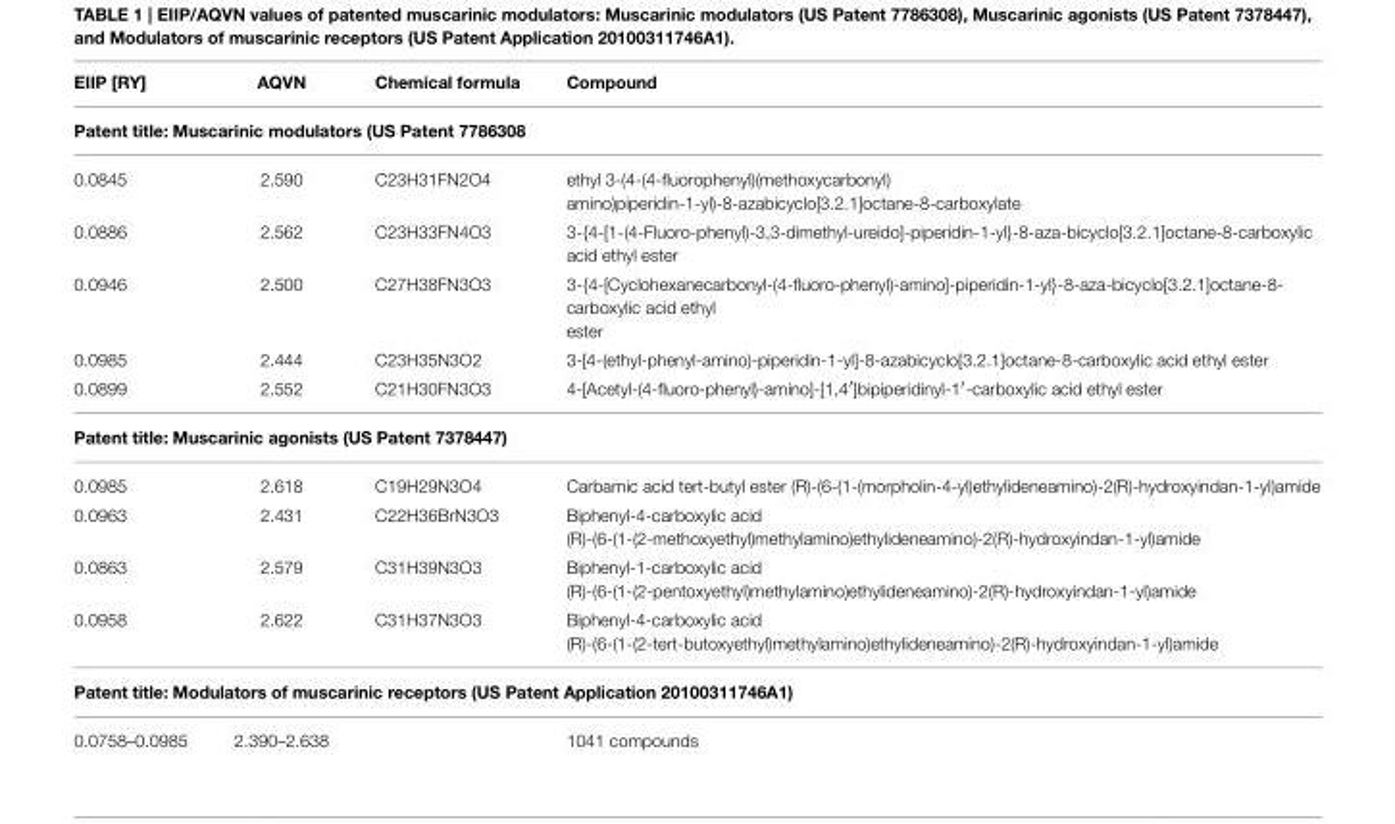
<table><thead><tr><td>EIIP [RY]</td><td>AQVN</td><td>Chemical formula</td><td>Compound</td></tr></thead><tbody><tr><td colspan="4">Patent title: Muscarinic modulators (US Patent 7786308</td></tr><tr><td>0.0845</td><td>2.590</td><td>C23H31FN2O4</td><td>ethyl 3-(4-(4-fluorophenyl)(methoxycarbonyl) amino)piperidin-1-yl)-8-azabicyclo[3.2.1]octane-8-carboxylate</td></tr><tr><td>0.0886</td><td>2.562</td><td>C23H33FN4O3</td><td>3-{4-[1-(4-Fluoro-phenyl)-3,3-dimethyl-ureido]-piperidin-1-yl}-8-aza-bicyclo[3.2.1]octane-8-carboxylic acid ethyl ester</td></tr><tr><td>0.0946</td><td>2.500</td><td>C27H38FN3O3</td><td>3-{4-[Cyclohexanecarbonyl-(4-fluoro-phenyl)-amino]-piperidin-1-yl}-8-aza-bicyclo[3.2.1]octane-8- carboxylic acid ethyl ester</td></tr><tr><td>0.0985</td><td>2.444</td><td>C23H35N3O2</td><td>3-[4-(ethyl-phenyl-amino)-piperidin-1-yl]-8-azabicyclo[3.2.1]octane-8-carboxylic acid ethyl ester</td></tr><tr><td>0.0899</td><td>2.552</td><td>C21H30FN3O3</td><td>4-[Acetyl-(4-fluoro-phenyl)-amino]-[1,4′]bipiperidinyl-1′-carboxylic acid ethyl ester</td></tr><tr><td colspan="4">Patent title: Muscarinic agonists (US Patent 7378447)</td></tr><tr><td>0.0985</td><td>2.618</td><td>C19H29N3O4</td><td>Carbamic acid tert-butyl ester (R)-(6-(1-(morpholin-4-yl)ethylideneamino)-2(R)-hydroxyindan-1-yl)amide</td></tr><tr><td>0.0963</td><td>2.431</td><td>C22H36BrN3O3</td><td>Biphenyl-4-carboxylic acid (R)-(6-(1-(2-methoxyethyl)methylamino)ethylideneamino)-2(R)-hydroxyindan-1-yl)amide</td></tr><tr><td>0.0863</td><td>2.579</td><td>C31H39N3O3</td><td>Biphenyl-1-carboxylic acid (R)-(6-(1-(2-pentoxyethyl)methylamino)ethylideneamino)-2(R)-hydroxyindan-1-yl)amide</td></tr><tr><td>0.0958</td><td>2.622</td><td>C31H37N3O3</td><td>Biphenyl-4-carboxylic acid (R)-(6-(1-(2-tert-butoxyethyl)methylamino)ethylideneamino)-2(R)-hydroxyindan-1-yl)amide</td></tr><tr><td colspan="4">Patent title: Modulators of muscarinic receptors (US Patent Application 20100311746A1)</td></tr><tr><td>0.0758–0.0985</td><td>2.390–2.638</td><td></td><td>1041 compounds</td></tr></tbody></table>